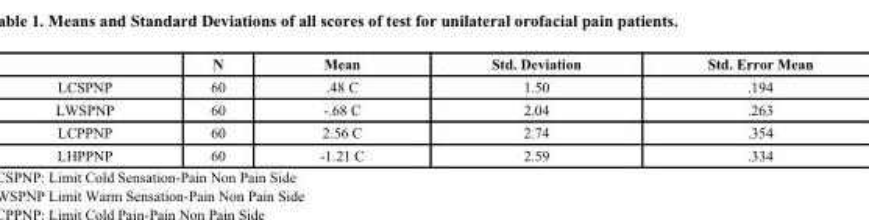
<table><thead><tr><td></td><td>N</td><td>Mean</td><td>Std. Deviation</td><td>Std. Error Mean</td></tr></thead><tbody><tr><td>LCSPNP</td><td>60</td><td>.48 C</td><td>1.50</td><td>.194</td></tr><tr><td>LWSPNP</td><td>60</td><td>-.68 C</td><td>2.04</td><td>.263</td></tr><tr><td>LCPPNP</td><td>60</td><td>2.56 C</td><td>2.74</td><td>.354</td></tr><tr><td>LHPPNP</td><td>60</td><td>-1.21 C</td><td>2.59</td><td>.334</td></tr></tbody></table>